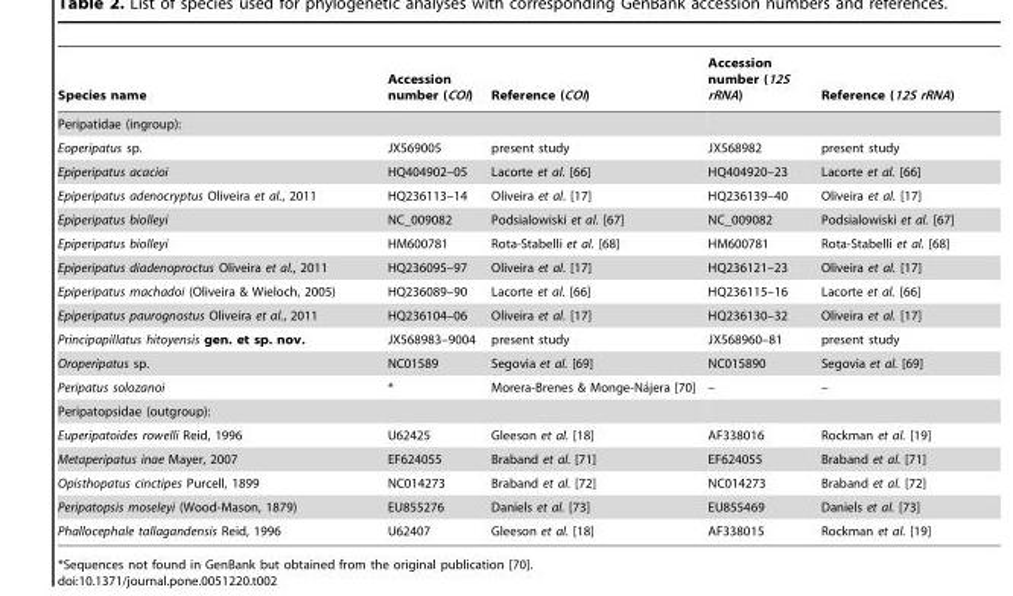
<table><thead><tr><td>Species name</td><td>Accession number (COI)</td><td>Reference (COI)</td><td>Accession number (12S rRNA)</td><td>Reference (12S rRNA)</td></tr></thead><tbody><tr><td colspan="5">Peripatidae (ingroup):</td></tr><tr><td>Eoperipatus sp.</td><td>JX569005</td><td>present study</td><td>JX568982</td><td>present study</td></tr><tr><td>Epiperipatus acacioi</td><td>HQ404902–05</td><td>Lacorte et al. [66]</td><td>HQ404920–23</td><td>Lacorte et al. [66]</td></tr><tr><td>Epiperipatus adenocryptus Oliveira et al., 2011</td><td>HQ236113–14</td><td>Oliveira et al. [17]</td><td>HQ236139–40</td><td>Oliveira et al. [17]</td></tr><tr><td>Epiperipatus biolleyi</td><td>NC_009082</td><td>Podsialowiski et al. [67]</td><td>NC_009082</td><td>Podsialowiski et al. [67]</td></tr><tr><td>Epiperipatus biolleyi</td><td>HM600781</td><td>Rota-Stabelli et al. [68]</td><td>HM600781</td><td>Rota-Stabelli et al. [68]</td></tr><tr><td>Epiperipatus diadenoproctus Oliveira et al., 2011</td><td>HQ236095–97</td><td>Oliveira et al. [17]</td><td>HQ236121–23</td><td>Oliveira et al. [17]</td></tr><tr><td>Epiperipatus machadoi (Oliveira &amp; Wieloch, 2005)</td><td>HQ236089–90</td><td>Lacorte et al. [66]</td><td>HQ236115–16</td><td>Lacorte et al. [66]</td></tr><tr><td>Epiperipatus paurognostus Oliveira et al., 2011</td><td>HQ236104–06</td><td>Oliveira et al. [17]</td><td>HQ236130–32</td><td>Oliveira et al. [17]</td></tr><tr><td>Principapillatus hitoyensis gen. et sp. nov.</td><td>JX568983–9004</td><td>present study</td><td>JX568960–81</td><td>present study</td></tr><tr><td>Oroperipatus sp.</td><td>NC01589</td><td>Segovia et al. [69]</td><td>NC015890</td><td>Segovia et al. [69]</td></tr><tr><td>Peripatus solozanoi</td><td>*</td><td>Morera-Brenes &amp; Monge-Na´jera [70]</td><td>–</td><td>–</td></tr><tr><td colspan="5">Peripatopsidae (outgroup):</td></tr><tr><td>Euperipatoides rowelli Reid, 1996</td><td>U62425</td><td>Gleeson et al. [18]</td><td>AF338016</td><td>Rockman et al. [19]</td></tr><tr><td>Metaperipatus inae Mayer, 2007</td><td>EF624055</td><td>Braband et al. [71]</td><td>EF624055</td><td>Braband et al. [71]</td></tr><tr><td>Opisthopatus cinctipes Purcell, 1899</td><td>NC014273</td><td>Braband et al. [72]</td><td>NC014273</td><td>Braband et al. [72]</td></tr><tr><td>Peripatopsis moseleyi (Wood-Mason, 1879)</td><td>EU855276</td><td>Daniels et al. [73]</td><td>EU855469</td><td>Daniels et al. [73]</td></tr><tr><td>Phallocephale tallagandensis Reid, 1996</td><td>U62407</td><td>Gleeson et al. [18]</td><td>AF338015</td><td>Rockman et al. [19]</td></tr></tbody></table>